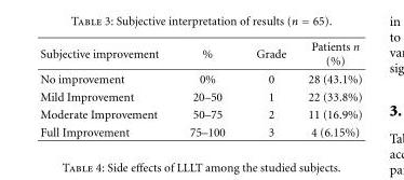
<table><thead><tr><td>Subjective improvement</td><td>%</td><td>Grade</td><td>Patients n (%)</td></tr></thead><tbody><tr><td>No improvement</td><td>0%</td><td>0</td><td>28 (43.1%)</td></tr><tr><td>Mild Improvement</td><td>20–50</td><td>1</td><td>22 (33.8%)</td></tr><tr><td>Moderate Improvement</td><td>50–75</td><td>2</td><td>11 (16.9%)</td></tr><tr><td>Full Improvement</td><td>75–100</td><td>3</td><td>4 (6.15%)</td></tr></tbody></table>